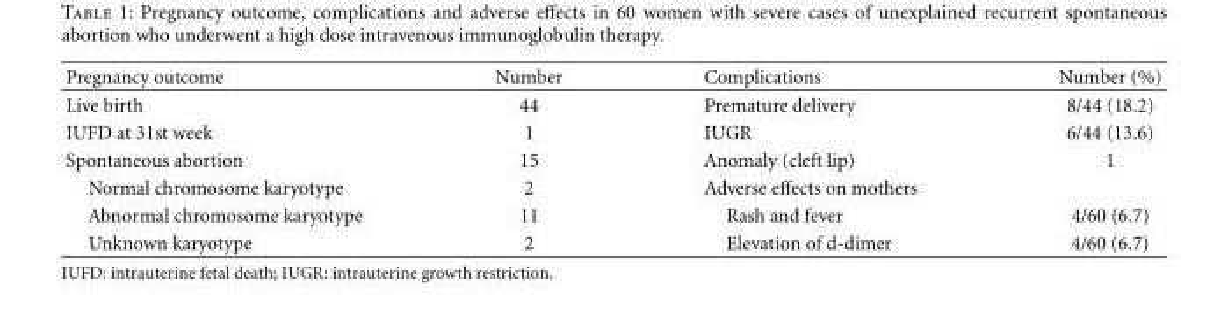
<table><thead><tr><td>Pregnancy outcome</td><td>Number</td><td>Complications</td><td>Number (%)</td></tr></thead><tbody><tr><td>Live birth</td><td>44</td><td>Premature delivery</td><td>8/44 (18.2)</td></tr><tr><td>IUFD at 31st week</td><td>1</td><td>IUGR</td><td>6/44 (13.6)</td></tr><tr><td>Spontaneous abortion</td><td>15</td><td>Anomaly (cleft lip)</td><td>1</td></tr><tr><td>Normal chromosome karyotype</td><td>2</td><td>Adverse effects on mothers</td><td></td></tr><tr><td>Abnormal chromosome karyotype</td><td>11</td><td>Rash and fever</td><td>4/60 (6.7)</td></tr><tr><td>Unknown karyotype</td><td>2</td><td>Elevation of d-dimer</td><td>4/60 (6.7)</td></tr></tbody></table>